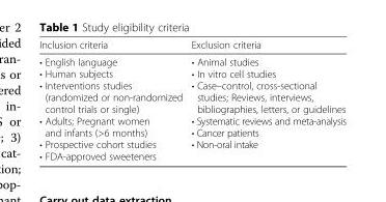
<table><thead><tr><td>Inclusion criteria</td><td>Exclusion criteria</td></tr></thead><tbody><tr><td>• English language • Human subjects • Interventions studies (randomized or non-randomized control trials or single) • Adults; Pregnant women and infants (&gt;6 months) • Prospective cohort studies • FDA-approved sweeteners</td><td>• Animal studies • In vitro cell studies • Case–control, cross-sectional studies; Reviews, interviews, bibliographies, letters, or guidelines • Systematic reviews and meta-analysis • Cancer patients • Non-oral intake</td></tr></tbody></table>